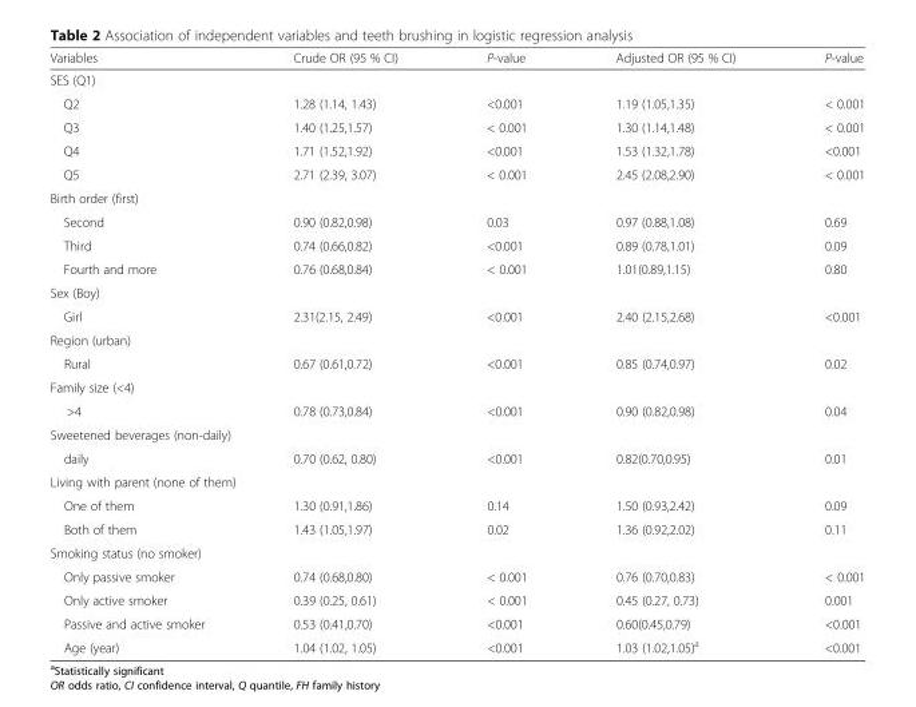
<table><thead><tr><td>Variables</td><td>Crude OR (95 % CI)</td><td>P-value</td><td>Adjusted OR (95 % CI)</td><td>P-value</td></tr></thead><tbody><tr><td colspan="5">SES (Q1)</td></tr><tr><td>Q2</td><td>1.28 (1.14, 1.43)</td><td>&lt;0.001</td><td>1.19 (1.05,1.35)</td><td>&lt; 0.001</td></tr><tr><td>Q3</td><td>1.40 (1.25,1.57)</td><td>&lt; 0.001</td><td>1.30 (1.14,1.48)</td><td>&lt; 0.001</td></tr><tr><td>Q4</td><td>1.71 (1.52,1.92)</td><td>&lt;0.001</td><td>1.53 (1.32,1.78)</td><td>&lt;0.001</td></tr><tr><td>Q5</td><td>2.71 (2.39, 3.07)</td><td>&lt; 0.001</td><td>2.45 (2.08,2.90)</td><td>&lt; 0.001</td></tr><tr><td colspan="5">Birth order (first)</td></tr><tr><td>Second</td><td>0.90 (0.82,0.98)</td><td>0.03</td><td>0.97 (0.88,1.08)</td><td>0.69</td></tr><tr><td>Third</td><td>0.74 (0.66,0.82)</td><td>&lt;0.001</td><td>0.89 (0.78,1.01)</td><td>0.09</td></tr><tr><td>Fourth and more</td><td>0.76 (0.68,0.84)</td><td>&lt; 0.001</td><td>1.01(0.89,1.15)</td><td>0.80</td></tr><tr><td colspan="5">Sex (Boy)</td></tr><tr><td>Girl</td><td>2.31(2.15, 2.49)</td><td>&lt;0.001</td><td>2.40 (2.15,2.68)</td><td>&lt;0.001</td></tr><tr><td colspan="5">Region (urban)</td></tr><tr><td>Rural</td><td>0.67 (0.61,0.72)</td><td>&lt;0.001</td><td>0.85 (0.74,0.97)</td><td>0.02</td></tr><tr><td colspan="5">Family size (&lt;4)</td></tr><tr><td>&gt;4</td><td>0.78 (0.73,0.84)</td><td>&lt;0.001</td><td>0.90 (0.82,0.98)</td><td>0.04</td></tr><tr><td colspan="5">Sweetened beverages (non-daily)</td></tr><tr><td>daily</td><td>0.70 (0.62, 0.80)</td><td>&lt;0.001</td><td>0.82(0.70,0.95)</td><td>0.01</td></tr><tr><td colspan="5">Living with parent (none of them)</td></tr><tr><td>One of them</td><td>1.30 (0.91,1.86)</td><td>0.14</td><td>1.50 (0.93,2.42)</td><td>0.09</td></tr><tr><td>Both of them</td><td>1.43 (1.05,1.97)</td><td>0.02</td><td>1.36 (0.92,2.02)</td><td>0.11</td></tr><tr><td colspan="5">Smoking status (no smoker)</td></tr><tr><td>Only passive smoker</td><td>0.74 (0.68,0.80)</td><td>&lt; 0.001</td><td>0.76 (0.70,0.83)</td><td>&lt; 0.001</td></tr><tr><td>Only active smoker</td><td>0.39 (0.25, 0.61)</td><td>&lt; 0.001</td><td>0.45 (0.27, 0.73)</td><td>0.001</td></tr><tr><td>Passive and active smoker</td><td>0.53 (0.41,0.70)</td><td>&lt;0.001</td><td>0.60(0.45,0.79)</td><td>&lt;0.001</td></tr><tr><td>Age (year)</td><td>1.04 (1.02, 1.05)</td><td>&lt;0.001</td><td>1.03 (1.02,1.05)<sup>a</sup></td><td>&lt;0.001</td></tr></tbody></table>